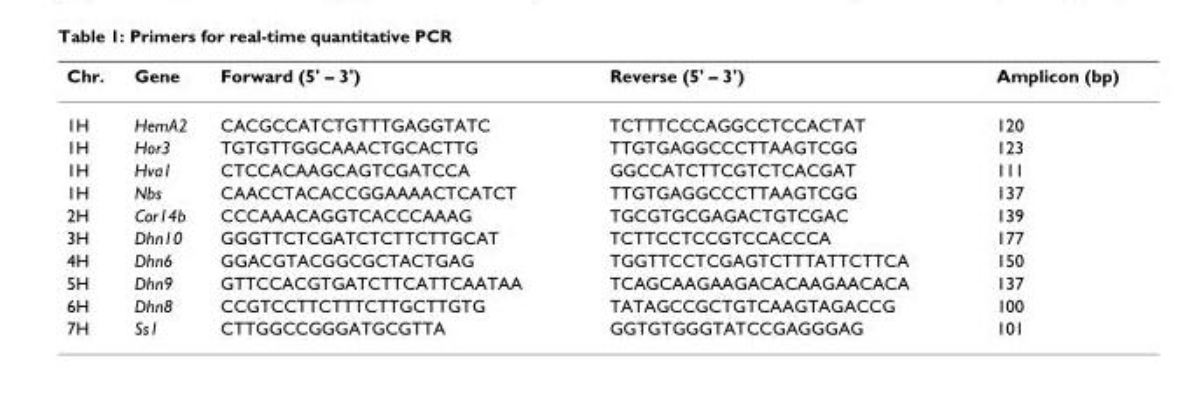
<table><thead><tr><td>Chr.</td><td>Gene</td><td>Forward (5&#x27; – 3&#x27;)</td><td>Reverse (5&#x27; – 3&#x27;)</td><td>Amplicon (bp)</td></tr></thead><tbody><tr><td>1H</td><td>HemA2</td><td>CACGCCATCTGTTTGAGGTATC</td><td>TCTTTCCCAGGCCTCCACTAT</td><td>120</td></tr><tr><td>1H</td><td>Hor3</td><td>TGTGTTGGCAAACTGCACTTG</td><td>TTGTGAGGCCCTTAAGTCGG</td><td>123</td></tr><tr><td>1H</td><td>Hva1</td><td>CTCCACAAGCAGTCGATCCA</td><td>GGCCATCTTCGTCTCACGAT</td><td>111</td></tr><tr><td>1H</td><td>Nbs</td><td>CAACCTACACCGGAAAACTCATCT</td><td>TTGTGAGGCCCTTAAGTCGG</td><td>137</td></tr><tr><td>2H</td><td>Cor14b</td><td>CCCAAACAGGTCACCCAAAG</td><td>TGCGTGCGAGACTGTCGAC</td><td>139</td></tr><tr><td>3H</td><td>Dhn10</td><td>GGGTTCTCGATCTCTTCTTGCAT</td><td>TCTTCCTCCGTCCACCCA</td><td>177</td></tr><tr><td>4H</td><td>Dhn6</td><td>GGACGTACGGCGCTACTGAG</td><td>TGGTTCCTCGAGTCTTTATTCTTCA</td><td>150</td></tr><tr><td>5H</td><td>Dhn9</td><td>GTTCCACGTGATCTTCATTCAATAA</td><td>TCAGCAAGAAGACACAAGAACACA</td><td>137</td></tr><tr><td>6H</td><td>Dhn8</td><td>CCGTCCTTCTTTCTTGCTTGTG</td><td>TATAGCCGCTGTCAAGTAGACCG</td><td>100</td></tr><tr><td>7H</td><td>Ss1</td><td>CTTGGCCGGGATGCGTTA</td><td>GGTGTGGGTATCCGAGGGAG</td><td>101</td></tr></tbody></table>